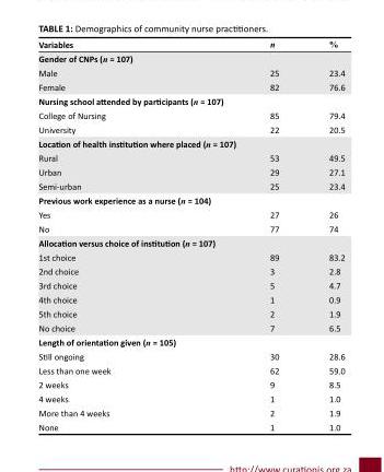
<table><thead><tr><td>Variables</td><td>n</td><td>%</td></tr></thead><tbody><tr><td colspan="3">Gender of CNPs (n = 107)</td></tr><tr><td>Male</td><td>25</td><td>23.4</td></tr><tr><td>Female</td><td>82</td><td>76.6</td></tr><tr><td colspan="3">Nursing school attended by participants (n = 107)</td></tr><tr><td>College of Nursing</td><td>85</td><td>79.4</td></tr><tr><td>University</td><td>22</td><td>20.5</td></tr><tr><td colspan="3">Location of health institution where placed (n = 107)</td></tr><tr><td>Rural</td><td>53</td><td>49.5</td></tr><tr><td>Urban</td><td>29</td><td>27.1</td></tr><tr><td>Semi-urban</td><td>25</td><td>23.4</td></tr><tr><td colspan="3">Previous work experience as a nurse (n = 104)</td></tr><tr><td>Yes</td><td>27</td><td>26</td></tr><tr><td>No</td><td>77</td><td>74</td></tr><tr><td colspan="3">Allocation versus choice of institution (n = 107)</td></tr><tr><td>1st choice</td><td>89</td><td>83.2</td></tr><tr><td>2nd choice</td><td>3</td><td>2.8</td></tr><tr><td>3rd choice</td><td>5</td><td>4.7</td></tr><tr><td>4th choice</td><td>1</td><td>0.9</td></tr><tr><td>5th choice</td><td>2</td><td>1.9</td></tr><tr><td>No choice</td><td>7</td><td>6.5</td></tr><tr><td colspan="3">Length of orientation given (n = 105)</td></tr><tr><td>Still ongoing</td><td>30</td><td>28.6</td></tr><tr><td>Less than one week</td><td>62</td><td>59.0</td></tr><tr><td>2 weeks</td><td>9</td><td>8.5</td></tr><tr><td>4 weeks</td><td>1</td><td>1.0</td></tr><tr><td>More than 4 weeks</td><td>2</td><td>1.9</td></tr><tr><td>None</td><td>1</td><td>1.0</td></tr></tbody></table>